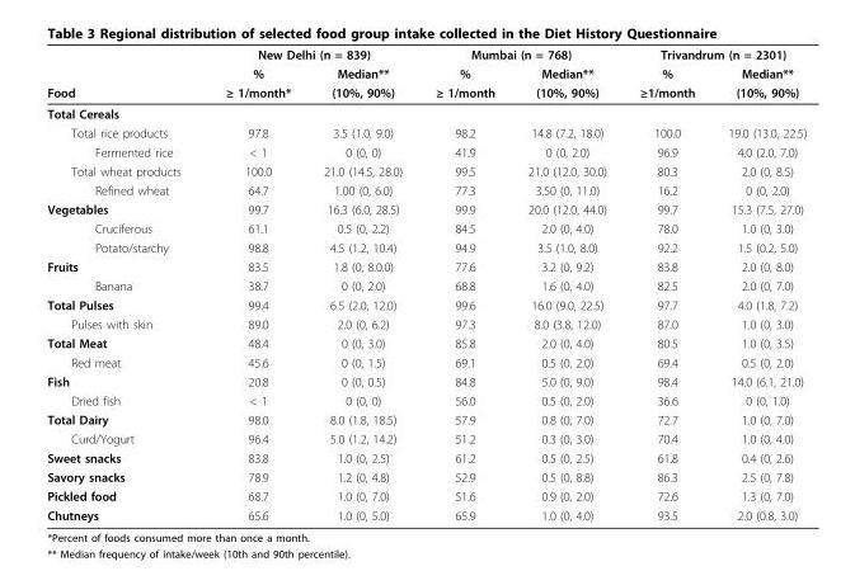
<table><thead><tr><td rowspan="3">Food</td><td colspan="2">New Delhi (n = 839)</td><td colspan="2">Mumbai (n = 768)</td><td colspan="2">Trivandrum (n = 2301)</td></tr><tr><td rowspan="2">% ≥ 1/month*</td><td rowspan="2">Median** (10%, 90%)</td><td rowspan="2">% ≥ 1/month</td><td rowspan="2">Median** (10%, 90%)</td><td rowspan="2">% ≥1/month</td><td rowspan="2">Median** (10%, 90%)</td></tr><tr></tr></thead><tbody><tr><td colspan="7">Total Cereals</td></tr><tr><td>Total rice products</td><td>97.8</td><td>3.5 (1.0, 9.0)</td><td>98.2</td><td>14.8 (7.2, 18.0)</td><td>100.0</td><td>19.0 (13.0, 22.5)</td></tr><tr><td>Fermented rice</td><td>&lt; 1</td><td>0 (0, 0)</td><td>41.9</td><td>0 (0, 2.0)</td><td>96.9</td><td>4.0 (2.0, 7.0)</td></tr><tr><td>Total wheat products</td><td>100.0</td><td>21.0 (14.5, 28.0)</td><td>99.5</td><td>21.0 (12.0, 30.0)</td><td>80.3</td><td>2.0 (0, 8.5)</td></tr><tr><td>Refined wheat</td><td>64.7</td><td>1.00 (0, 6.0)</td><td>77.3</td><td>3.50 (0, 11.0)</td><td>16.2</td><td>0 (0, 2.0)</td></tr><tr><td>Vegetables</td><td>99.7</td><td>16.3 (6.0, 28.5)</td><td>99.9</td><td>20.0 (12.0, 44.0)</td><td>99.7</td><td>15.3 (7.5, 27.0)</td></tr><tr><td>Cruciferous</td><td>61.1</td><td>0.5 (0, 2.2)</td><td>84.5</td><td>2.0 (0, 4.0)</td><td>78.0</td><td>1.0 (0, 3.0)</td></tr><tr><td>Potato/starchy</td><td>98.8</td><td>4.5 (1.2, 10.4)</td><td>94.9</td><td>3.5 (1.0, 8.0)</td><td>92.2</td><td>1.5 (0.2, 5.0)</td></tr><tr><td>Fruits</td><td>83.5</td><td>1.8 (0, 8.0.0)</td><td>77.6</td><td>3.2 (0, 9.2)</td><td>83.8</td><td>2.0 (0, 8.0)</td></tr><tr><td>Banana</td><td>38.7</td><td>0 (0, 2.0)</td><td>68.8</td><td>1.6 (0, 4.0)</td><td>82.5</td><td>2.0 (0, 7.0)</td></tr><tr><td>Total Pulses</td><td>99.4</td><td>6.5 (2.0, 12.0)</td><td>99.6</td><td>16.0 (9.0, 22.5)</td><td>97.7</td><td>4.0 (1.8, 7.2)</td></tr><tr><td>Pulses with skin</td><td>89.0</td><td>2.0 (0, 6.2)</td><td>97.3</td><td>8.0 (3.8, 12.0)</td><td>87.0</td><td>1.0 (0, 3.0)</td></tr><tr><td>Total Meat</td><td>48.4</td><td>0 (0, 3.0)</td><td>85.8</td><td>2.0 (0, 4.0)</td><td>80.5</td><td>1.0 (0, 3.5)</td></tr><tr><td>Red meat</td><td>45.6</td><td>0 (0, 1.5)</td><td>69.1</td><td>0.5 (0, 2.0)</td><td>69.4</td><td>0.5 (0, 2.0)</td></tr><tr><td>Fish</td><td>20.8</td><td>0 (0, 0.5)</td><td>84.8</td><td>5.0 (0, 9.0)</td><td>98.4</td><td>14.0 (6.1, 21.0)</td></tr><tr><td>Dried fish</td><td>&lt; 1</td><td>0 (0, 0)</td><td>56.0</td><td>0.5 (0, 2.0)</td><td>36.6</td><td>0 (0, 1.0)</td></tr><tr><td>Total Dairy</td><td>98.0</td><td>8.0 (1.8, 18.5)</td><td>57.9</td><td>0.8 (0, 7.0)</td><td>72.7</td><td>1.0 (0, 7.0)</td></tr><tr><td>Curd/Yogurt</td><td>96.4</td><td>5.0 (1.2, 14.2)</td><td>51.2</td><td>0.3 (0, 3.0)</td><td>70.4</td><td>1.0 (0, 4.0)</td></tr><tr><td>Sweet snacks</td><td>83.8</td><td>1.0 (0, 2.5)</td><td>61.2</td><td>0.5 (0, 2.5)</td><td>61.8</td><td>0.4 (0, 2.6)</td></tr><tr><td>Savory snacks</td><td>78.9</td><td>1.2 (0, 4.8)</td><td>52.9</td><td>0.5 (0, 8.8)</td><td>86.3</td><td>2.5 (0, 7.8)</td></tr><tr><td>Pickled food</td><td>68.7</td><td>1.0 (0, 7.0)</td><td>51.6</td><td>0.9 (0, 2.0)</td><td>72.6</td><td>1.3 (0, 7.0)</td></tr><tr><td>Chutneys</td><td>65.6</td><td>1.0 (0, 5.0)</td><td>65.9</td><td>1.0 (0, 4.0)</td><td>93.5</td><td>2.0 (0.8, 3.0)</td></tr></tbody></table>